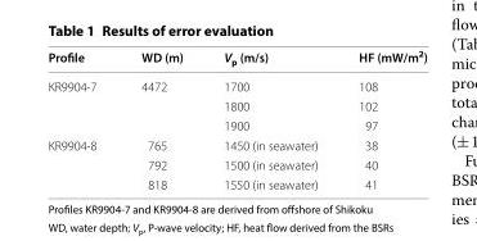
<table><thead><tr><td>Profile</td><td>WD (m)</td><td>V<sub>p</sub> (m/s)</td><td>HF (mW/m<sup>2</sup>)</td></tr></thead><tbody><tr><td rowspan="3">KR9904-7</td><td>4472</td><td>1700</td><td>108</td></tr><tr><td></td><td>1800</td><td>102</td></tr><tr><td></td><td>1900</td><td>97</td></tr><tr><td rowspan="3">KR9904-8</td><td>765</td><td>1450 (in seawater)</td><td>38</td></tr><tr><td>792</td><td>1500 (in seawater)</td><td>40</td></tr><tr><td>818</td><td>1550 (in seawater)</td><td>41</td></tr></tbody></table>